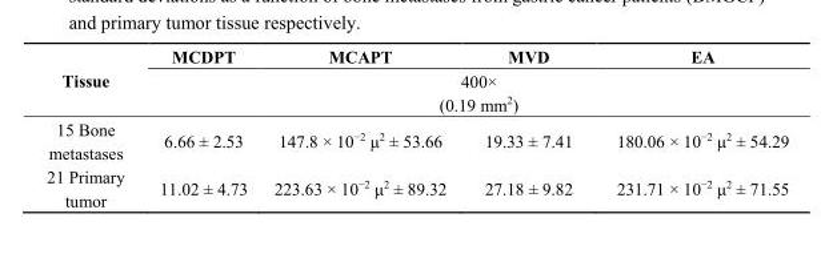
<table><thead><tr><td rowspan="2">Tissue</td><td>MCDPT</td><td>MCAPT</td><td>MVD</td><td>EA</td></tr><tr><td colspan="4">400× (0.19 mm<sup>2</sup>)</td></tr></thead><tbody><tr><td>15 Bone metastases</td><td>6.66 ± 2.53</td><td>147.8 × 10<sup>−2</sup> μ<sup>2</sup> ± 53.66</td><td>19.33 ± 7.41</td><td>180.06 × 10<sup>−2</sup> μ<sup>2</sup> ± 54.29</td></tr><tr><td>21 Primary tumor</td><td>11.02 ± 4.73</td><td>223.63 × 10<sup>−2</sup> μ<sup>2</sup> ± 89.32</td><td>27.18 ± 9.82</td><td>231.71 × 10<sup>−2</sup> μ<sup>2</sup> ± 71.55</td></tr></tbody></table>